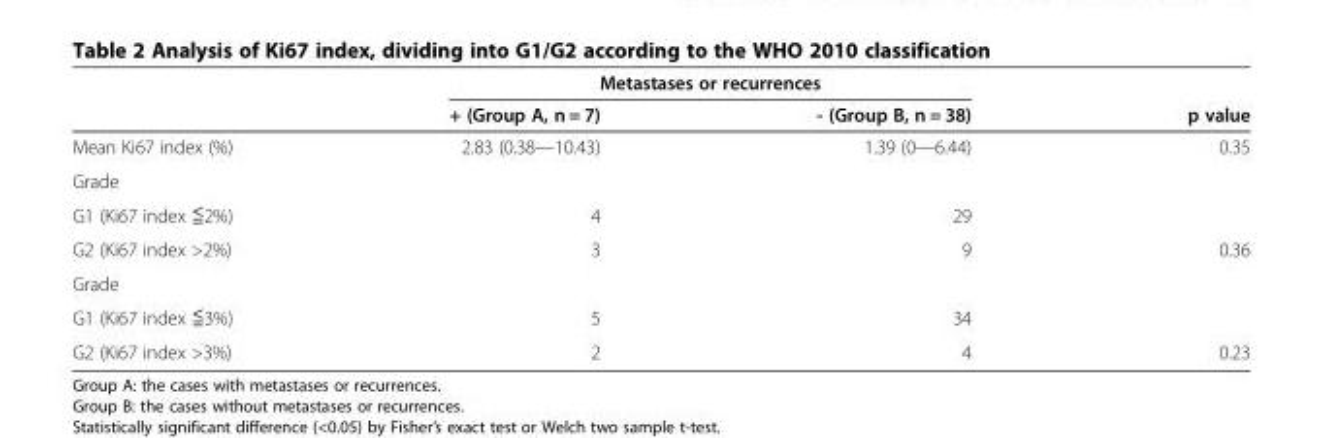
<table><thead><tr><td rowspan="2"></td><td colspan="2">Metastases or recurrences</td><td rowspan="2">p value</td></tr><tr><td>+ (Group A, n = 7)</td><td>- (Group B, n = 38)</td></tr></thead><tbody><tr><td>Mean Ki67 index (%)</td><td>2.83 (0.38—10.43)</td><td>1.39 (0—6.44)</td><td>0.35</td></tr><tr><td colspan="4">Grade</td></tr><tr><td>G1 (Ki67 index ≦2%)</td><td>4</td><td>29</td><td></td></tr><tr><td>G2 (Ki67 index &gt;2%)</td><td>3</td><td>9</td><td>0.36</td></tr><tr><td colspan="4">Grade</td></tr><tr><td>G1 (Ki67 index ≦3%)</td><td>5</td><td>34</td><td></td></tr><tr><td>G2 (Ki67 index &gt;3%)</td><td>2</td><td>4</td><td>0.23</td></tr></tbody></table>